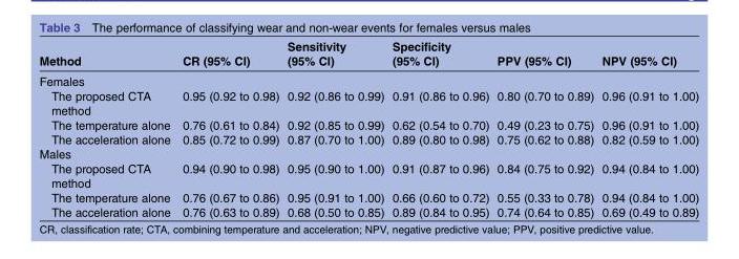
<table><thead><tr><td>Method</td><td>CR (95% CI)</td><td>Sensitivity (95% CI)</td><td>Specificity (95% CI)</td><td>PPV (95% CI)</td><td>NPV (95% CI)</td></tr></thead><tbody><tr><td colspan="6">Females</td></tr><tr><td>The proposed CTA method</td><td>0.95 (0.92 to 0.98)</td><td>0.92 (0.86 to 0.99)</td><td>0.91 (0.86 to 0.96)</td><td>0.80 (0.70 to 0.89)</td><td>0.96 (0.91 to 1.00)</td></tr><tr><td>The temperature alone</td><td>0.76 (0.61 to 0.84)</td><td>0.92 (0.85 to 0.99)</td><td>0.62 (0.54 to 0.70)</td><td>0.49 (0.23 to 0.75)</td><td>0.96 (0.91 to 1.00)</td></tr><tr><td>The acceleration alone</td><td>0.85 (0.72 to 0.99)</td><td>0.87 (0.70 to 1.00)</td><td>0.89 (0.80 to 0.98)</td><td>0.75 (0.62 to 0.88)</td><td>0.82 (0.59 to 1.00)</td></tr><tr><td colspan="6">Males</td></tr><tr><td>The proposed CTA method</td><td>0.94 (0.90 to 0.98)</td><td>0.95 (0.90 to 1.00)</td><td>0.91 (0.87 to 0.96)</td><td>0.84 (0.75 to 0.92)</td><td>0.94 (0.84 to 1.00)</td></tr><tr><td>The temperature alone</td><td>0.76 (0.67 to 0.86)</td><td>0.95 (0.91 to 1.00)</td><td>0.66 (0.60 to 0.72)</td><td>0.55 (0.33 to 0.78)</td><td>0.94 (0.84 to 1.00)</td></tr><tr><td>The acceleration alone</td><td>0.76 (0.63 to 0.89)</td><td>0.68 (0.50 to 0.85)</td><td>0.89 (0.84 to 0.95)</td><td>0.74 (0.64 to 0.85)</td><td>0.69 (0.49 to 0.89)</td></tr></tbody></table>